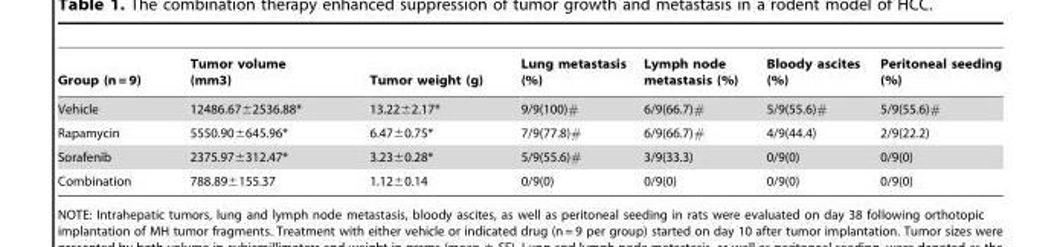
<table><thead><tr><td>Group (n = 9)</td><td>Tumor volume (mm3)</td><td>Tumor weight (g)</td><td>Lung metastasis (%)</td><td>Lymph node metastasis (%)</td><td>Bloody ascites (%)</td><td>Peritoneal seeding (%)</td></tr></thead><tbody><tr><td>Vehicle</td><td>12486.67±2536.88*</td><td>13.22±2.17*</td><td>9/9(100)#</td><td>6/9(66.7)#</td><td>5/9(55.6)#</td><td>5/9(55.6)#</td></tr><tr><td>Rapamycin</td><td>5550.90±645.96*</td><td>6.47±0.75*</td><td>7/9(77.8)#</td><td>6/9(66.7)#</td><td>4/9(44.4)</td><td>2/9(22.2)</td></tr><tr><td>Sorafenib</td><td>2375.97±312.47*</td><td>3.23±0.28*</td><td>5/9(55.6)#</td><td>3/9(33.3)</td><td>0/9(0)</td><td>0/9(0)</td></tr><tr><td>Combination</td><td>788.89±155.37</td><td>1.12±0.14</td><td>0/9(0)</td><td>0/9(0)</td><td>0/9(0)</td><td>0/9(0)</td></tr></tbody></table>